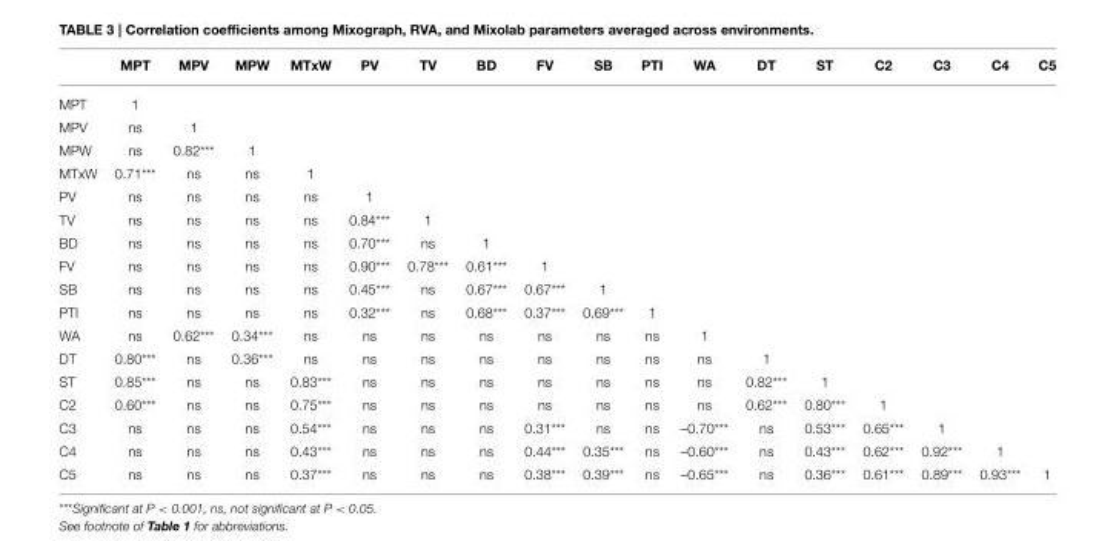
<table><thead><tr><td></td><td>MPT</td><td>MPV</td><td>MPW</td><td>MTxW</td><td>PV</td><td>TV</td><td>BD</td><td>FV</td><td>SB</td><td>PTI</td><td>WA</td><td>DT</td><td>ST</td><td>C2</td><td>C3</td><td>C4</td><td>C5</td></tr></thead><tbody><tr><td>MPT</td><td>1</td><td></td><td></td><td></td><td></td><td></td><td></td><td></td><td></td><td></td><td></td><td></td><td></td><td></td><td></td><td></td><td></td></tr><tr><td>MPV</td><td>ns</td><td>1</td><td></td><td></td><td></td><td></td><td></td><td></td><td></td><td></td><td></td><td></td><td></td><td></td><td></td><td></td><td></td></tr><tr><td>MPW</td><td>ns</td><td>0.82***</td><td>1</td><td></td><td></td><td></td><td></td><td></td><td></td><td></td><td></td><td></td><td></td><td></td><td></td><td></td><td></td></tr><tr><td>MTxW</td><td>0.71***</td><td>ns</td><td>ns</td><td>1</td><td></td><td></td><td></td><td></td><td></td><td></td><td></td><td></td><td></td><td></td><td></td><td></td><td></td></tr><tr><td>PV</td><td>ns</td><td>ns</td><td>ns</td><td>ns</td><td>1</td><td></td><td></td><td></td><td></td><td></td><td></td><td></td><td></td><td></td><td></td><td></td><td></td></tr><tr><td>TV</td><td>ns</td><td>ns</td><td>ns</td><td>ns</td><td>0.84***</td><td>1</td><td></td><td></td><td></td><td></td><td></td><td></td><td></td><td></td><td></td><td></td><td></td></tr><tr><td>BD</td><td>ns</td><td>ns</td><td>ns</td><td>ns</td><td>0.70***</td><td>ns</td><td>1</td><td></td><td></td><td></td><td></td><td></td><td></td><td></td><td></td><td></td><td></td></tr><tr><td>FV</td><td>ns</td><td>ns</td><td>ns</td><td>ns</td><td>0.90***</td><td>0.78***</td><td>0.61***</td><td>1</td><td></td><td></td><td></td><td></td><td></td><td></td><td></td><td></td><td></td></tr><tr><td>SB</td><td>ns</td><td>ns</td><td>ns</td><td>ns</td><td>0.45***</td><td>ns</td><td>0.67***</td><td>0.67***</td><td>1</td><td></td><td></td><td></td><td></td><td></td><td></td><td></td><td></td></tr><tr><td>PTI</td><td>ns</td><td>ns</td><td>ns</td><td>ns</td><td>0.32***</td><td>ns</td><td>0.68***</td><td>0.37***</td><td>0.69***</td><td>1</td><td></td><td></td><td></td><td></td><td></td><td></td><td></td></tr><tr><td>WA</td><td>ns</td><td>0.62***</td><td>0.34***</td><td>ns</td><td>ns</td><td>ns</td><td>ns</td><td>ns</td><td>ns</td><td>ns</td><td>1</td><td></td><td></td><td></td><td></td><td></td><td></td></tr><tr><td>DT</td><td>0.80***</td><td>ns</td><td>0.36***</td><td>ns</td><td>ns</td><td>ns</td><td>ns</td><td>ns</td><td>ns</td><td>ns</td><td>ns</td><td>1</td><td></td><td></td><td></td><td></td><td></td></tr><tr><td>ST</td><td>0.85***</td><td>ns</td><td>ns</td><td>0.83***</td><td>ns</td><td>ns</td><td>ns</td><td>ns</td><td>ns</td><td>ns</td><td>ns</td><td>0.82***</td><td>1</td><td></td><td></td><td></td><td></td></tr><tr><td>C2</td><td>0.60***</td><td>ns</td><td>ns</td><td>0.75***</td><td>ns</td><td>ns</td><td>ns</td><td>ns</td><td>ns</td><td>ns</td><td>ns</td><td>0.62***</td><td>0.80***</td><td>1</td><td></td><td></td><td></td></tr><tr><td>C3</td><td>ns</td><td>ns</td><td>ns</td><td>0.54***</td><td>ns</td><td>ns</td><td>ns</td><td>0.31***</td><td>ns</td><td>ns</td><td>–0.70***</td><td>ns</td><td>0.53***</td><td>0.65***</td><td>1</td><td></td><td></td></tr><tr><td>C4</td><td>ns</td><td>ns</td><td>ns</td><td>0.43***</td><td>ns</td><td>ns</td><td>ns</td><td>0.44***</td><td>0.35***</td><td>ns</td><td>–0.60***</td><td>ns</td><td>0.43***</td><td>0.62***</td><td>0.92***</td><td>1</td><td></td></tr><tr><td>C5</td><td>ns</td><td>ns</td><td>ns</td><td>0.37***</td><td>ns</td><td>ns</td><td>ns</td><td>0.38***</td><td>0.39***</td><td>ns</td><td>–0.65***</td><td>ns</td><td>0.36***</td><td>0.61***</td><td>0.89***</td><td>0.93***</td><td>1</td></tr></tbody></table>